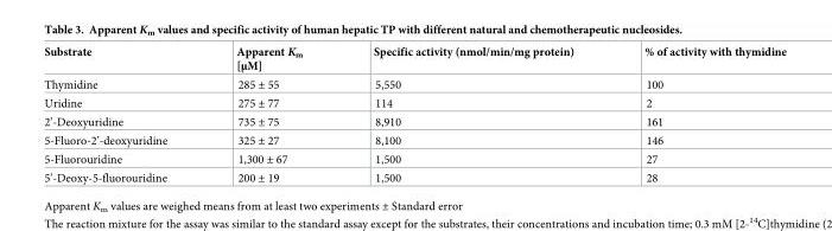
<table><thead><tr><td>Substrate</td><td>Apparent K<sub>m</sub> [μM]</td><td>Specific activity (nmol/min/mg protein)</td><td>% of activity with thymidine</td></tr></thead><tbody><tr><td>Thymidine</td><td>285 ± 55</td><td>5,550</td><td>100</td></tr><tr><td>Uridine</td><td>275 ± 77</td><td>114</td><td>2</td></tr><tr><td>2’-Deoxyuridine</td><td>735 ± 75</td><td>8,910</td><td>161</td></tr><tr><td>5-Fluoro-2’-deoxyuridine</td><td>325 ± 27</td><td>8,100</td><td>146</td></tr><tr><td>5-Fluorouridine</td><td>1,300 ± 67</td><td>1,500</td><td>27</td></tr><tr><td>5’-Deoxy-5-fluorouridine</td><td>200 ± 19</td><td>1,500</td><td>28</td></tr></tbody></table>